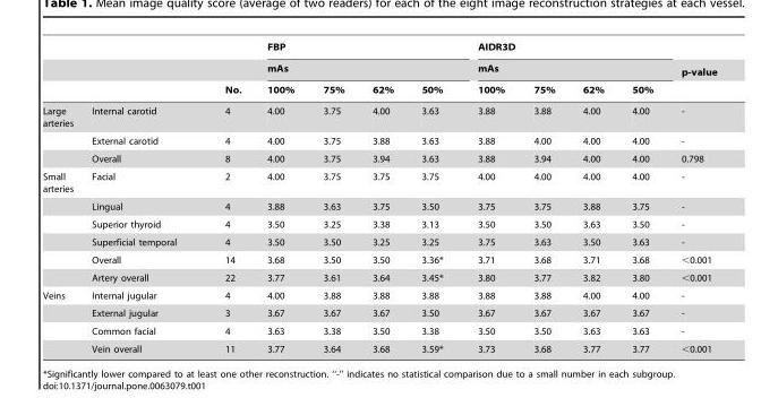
<table><thead><tr><td rowspan="3"></td><td rowspan="3"></td><td rowspan="3">No.</td><td rowspan="2" colspan="4">FBP mAs</td><td rowspan="2" colspan="4">AIDR3D mAs</td><td rowspan="3">p-value</td></tr><tr></tr><tr><td>100%</td><td>75%</td><td>62%</td><td>50%</td><td>100%</td><td>75%</td><td>62%</td><td>50%</td></tr></thead><tbody><tr><td rowspan="3">Large arteries</td><td>Internal carotid</td><td>4</td><td>4.00</td><td>3.75</td><td>4.00</td><td>3.63</td><td>3.88</td><td>3.88</td><td>4.00</td><td>4.00</td><td>-</td></tr><tr><td>External carotid</td><td>4</td><td>4.00</td><td>3.75</td><td>3.88</td><td>3.63</td><td>3.88</td><td>4.00</td><td>4.00</td><td>4.00</td><td>-</td></tr><tr><td>Overall</td><td>8</td><td>4.00</td><td>3.75</td><td>3.94</td><td>3.63</td><td>3.88</td><td>3.94</td><td>4.00</td><td>4.00</td><td>0.798</td></tr><tr><td rowspan="6">Small arteries</td><td>Facial</td><td>2</td><td>4.00</td><td>3.75</td><td>3.75</td><td>3.75</td><td>4.00</td><td>4.00</td><td>4.00</td><td>4.00</td><td>-</td></tr><tr><td>Lingual</td><td>4</td><td>3.88</td><td>3.63</td><td>3.75</td><td>3.50</td><td>3.75</td><td>3.75</td><td>3.88</td><td>3.75</td><td>-</td></tr><tr><td>Superior thyroid</td><td>4</td><td>3.50</td><td>3.25</td><td>3.38</td><td>3.13</td><td>3.50</td><td>3.50</td><td>3.63</td><td>3.50</td><td>-</td></tr><tr><td>Superficial temporal</td><td>4</td><td>3.50</td><td>3.50</td><td>3.25</td><td>3.25</td><td>3.75</td><td>3.63</td><td>3.50</td><td>3.63</td><td>-</td></tr><tr><td>Overall</td><td>14</td><td>3.68</td><td>3.50</td><td>3.50</td><td>3.36*</td><td>3.71</td><td>3.68</td><td>3.71</td><td>3.68</td><td>&lt;0.001</td></tr><tr><td>Artery overall</td><td>22</td><td>3.77</td><td>3.61</td><td>3.64</td><td>3.45*</td><td>3.80</td><td>3.77</td><td>3.82</td><td>3.80</td><td>&lt;0.001</td></tr><tr><td rowspan="4">Veins</td><td>Internal jugular</td><td>4</td><td>4.00</td><td>3.88</td><td>3.88</td><td>3.88</td><td>3.88</td><td>3.88</td><td>4.00</td><td>4.00</td><td>-</td></tr><tr><td>External jugular</td><td>3</td><td>3.67</td><td>3.67</td><td>3.67</td><td>3.50</td><td>3.67</td><td>3.67</td><td>3.67</td><td>3.67</td><td>-</td></tr><tr><td>Common facial</td><td>4</td><td>3.63</td><td>3.38</td><td>3.50</td><td>3.38</td><td>3.50</td><td>3.50</td><td>3.63</td><td>3.63</td><td>-</td></tr><tr><td>Vein overall</td><td>11</td><td>3.77</td><td>3.64</td><td>3.68</td><td>3.59*</td><td>3.73</td><td>3.68</td><td>3.77</td><td>3.77</td><td>&lt;0.001</td></tr></tbody></table>